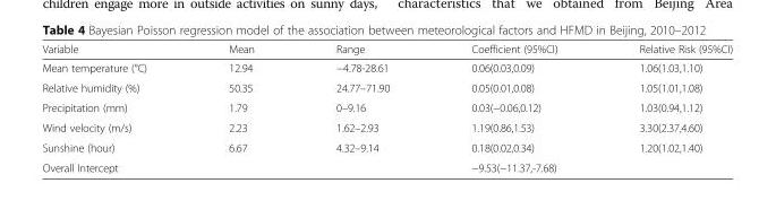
<table><thead><tr><td>Variable</td><td>Mean</td><td>Range</td><td>Coefficient (95%CI)</td><td>Relative Risk (95%CI)</td></tr></thead><tbody><tr><td>Mean temperature (°C)</td><td>12.94</td><td>−4.78-28.61</td><td>0.06(0.03,0.09)</td><td>1.06(1.03,1.10)</td></tr><tr><td>Relative humidity (%)</td><td>50.35</td><td>24.77–71.90</td><td>0.05(0.01,0.08)</td><td>1.05(1.01,1.08)</td></tr><tr><td>Precipitation (mm)</td><td>1.79</td><td>0–9.16</td><td>0.03(−0.06,0.12)</td><td>1.03(0.94,1.12)</td></tr><tr><td>Wind velocity (m/s)</td><td>2.23</td><td>1.62–2.93</td><td>1.19(0.86,1.53)</td><td>3.30(2.37,4.60)</td></tr><tr><td>Sunshine (hour)</td><td>6.67</td><td>4.32–9.14</td><td>0.18(0.02,0.34)</td><td>1.20(1.02,1.40)</td></tr><tr><td>Overall Intercept</td><td></td><td></td><td>−9.53(−11.37,-7.68)</td><td></td></tr></tbody></table>